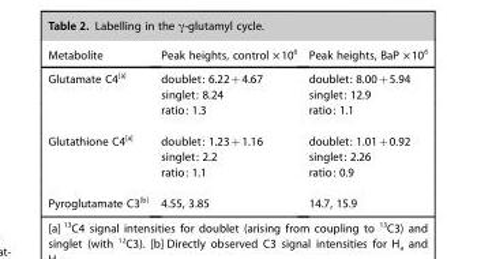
<table><thead><tr><td>Metabolite</td><td>Peak heights, control ×10<sup>6</sup></td><td>Peak heights, BaP ×10<sup>6</sup></td></tr></thead><tbody><tr><td rowspan="3">Glutamate C4<sup>[a]</sup></td><td>doublet: 6.22+4.67</td><td>doublet: 8.00+5.94</td></tr><tr><td>singlet: 8.24</td><td>singlet: 12.9</td></tr><tr><td>ratio: 1.3</td><td>ratio: 1.1</td></tr><tr><td rowspan="3">Glutathione C4<sup>[a]</sup></td><td>doublet: 1.23+1.16</td><td>doublet: 1.01+0.92</td></tr><tr><td>singlet: 2.2</td><td>singlet: 2.26</td></tr><tr><td>ratio: 1.1</td><td>ratio: 0.9</td></tr><tr><td>Pyroglutamate C3<sup>[b]</sup></td><td>4.55, 3.85</td><td>14.7, 15.9</td></tr></tbody></table>